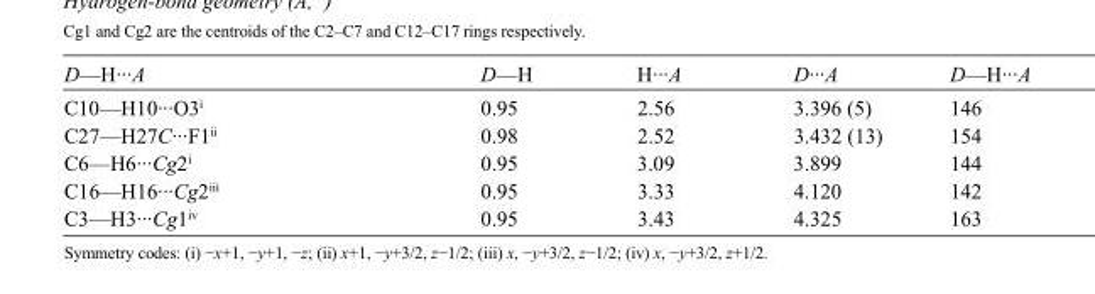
<table><tbody><tr><td>D—H···A</td><td>D—H</td><td>H···A</td><td>D···A</td><td>D—H···A</td></tr><tr><td>C10—H10···O3<sup>i</sup></td><td>0.95</td><td>2.56</td><td>3.396 (5)</td><td>146</td></tr><tr><td>C27—H27C···F1<sup>ii</sup></td><td>0.98</td><td>2.52</td><td>3.432 (13)</td><td>154</td></tr><tr><td>C6—H6···Cg2<sup>i</sup></td><td>0.95</td><td>3.09</td><td>3.899</td><td>144</td></tr><tr><td>C16—H16···Cg2<sup>iii</sup></td><td>0.95</td><td>3.33</td><td>4.120</td><td>142</td></tr><tr><td>C3—H3···Cg1<sup>iv</sup></td><td>0.95</td><td>3.43</td><td>4.325</td><td>163</td></tr></tbody></table>